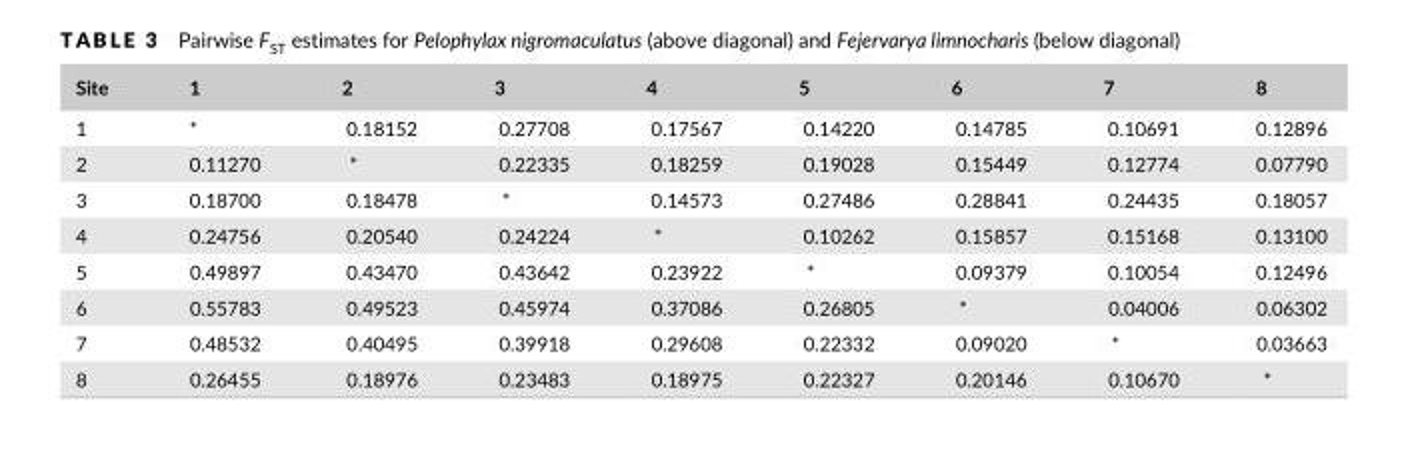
<table><thead><tr><td>Site</td><td>1</td><td>2</td><td>3</td><td>4</td><td>5</td><td>6</td><td>7</td><td>8</td></tr></thead><tbody><tr><td>1</td><td>*</td><td>0.18152</td><td>0.27708</td><td>0.17567</td><td>0.14220</td><td>0.14785</td><td>0.10691</td><td>0.12896</td></tr><tr><td>2</td><td>0.11270</td><td>*</td><td>0.22335</td><td>0.18259</td><td>0.19028</td><td>0.15449</td><td>0.12774</td><td>0.07790</td></tr><tr><td>3</td><td>0.18700</td><td>0.18478</td><td>*</td><td>0.14573</td><td>0.27486</td><td>0.28841</td><td>0.24435</td><td>0.18057</td></tr><tr><td>4</td><td>0.24756</td><td>0.20540</td><td>0.24224</td><td>*</td><td>0.10262</td><td>0.15857</td><td>0.15168</td><td>0.13100</td></tr><tr><td>5</td><td>0.49897</td><td>0.43470</td><td>0.43642</td><td>0.23922</td><td>*</td><td>0.09379</td><td>0.10054</td><td>0.12496</td></tr><tr><td>6</td><td>0.55783</td><td>0.49523</td><td>0.45974</td><td>0.37086</td><td>0.26805</td><td>*</td><td>0.04006</td><td>0.06302</td></tr><tr><td>7</td><td>0.48532</td><td>0.40495</td><td>0.39918</td><td>0.29608</td><td>0.22332</td><td>0.09020</td><td>*</td><td>0.03663</td></tr><tr><td>8</td><td>0.26455</td><td>0.18976</td><td>0.23483</td><td>0.18975</td><td>0.22327</td><td>0.20146</td><td>0.10670</td><td>*</td></tr></tbody></table>